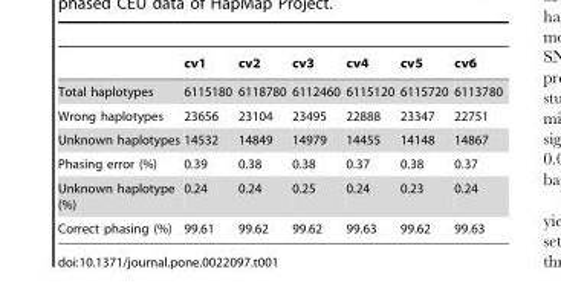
<table><thead><tr><td></td><td>cv1</td><td>cv2</td><td>cv3</td><td>cv4</td><td>cv5</td><td>cv6</td></tr></thead><tbody><tr><td>Total haplotypes</td><td>6115180</td><td>6118780</td><td>6112460</td><td>6115120</td><td>6115720</td><td>6113780</td></tr><tr><td>Wrong haplotypes</td><td>23656</td><td>23104</td><td>23495</td><td>22888</td><td>23347</td><td>22751</td></tr><tr><td>Unknown haplotypes</td><td>14532</td><td>14849</td><td>14979</td><td>14455</td><td>14148</td><td>14867</td></tr><tr><td>Phasing error (%)</td><td>0.39</td><td>0.38</td><td>0.38</td><td>0.37</td><td>0.38</td><td>0.37</td></tr><tr><td>Unknown haplotype (%)</td><td>0.24</td><td>0.24</td><td>0.25</td><td>0.24</td><td>0.23</td><td>0.24</td></tr><tr><td>Correct phasing (%)</td><td>99.61</td><td>99.62</td><td>99.62</td><td>99.63</td><td>99.62</td><td>99.63</td></tr></tbody></table>